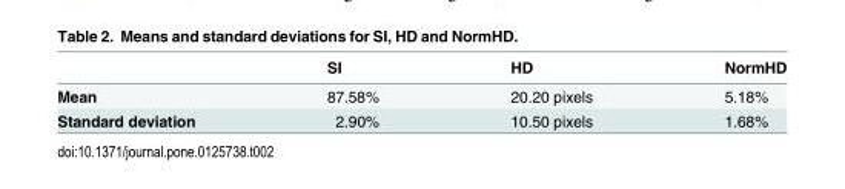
<table><thead><tr><td></td><td>SI</td><td>HD</td><td>NormHD</td></tr></thead><tbody><tr><td>Mean</td><td>87.58%</td><td>20.20 pixels</td><td>5.18%</td></tr><tr><td>Standard deviation</td><td>2.90%</td><td>10.50 pixels</td><td>1.68%</td></tr></tbody></table>